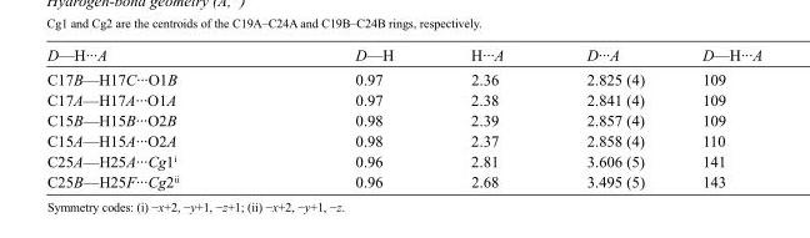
<table><tbody><tr><td>D—H···A</td><td>D—H</td><td>H···A</td><td>D···A</td><td>D—H···A</td></tr><tr><td>C17B—H17C···O1B</td><td>0.97</td><td>2.36</td><td>2.825 (4)</td><td>109</td></tr><tr><td>C17A—H17A···O1A</td><td>0.97</td><td>2.38</td><td>2.841 (4)</td><td>109</td></tr><tr><td>C15B—H15B···O2B</td><td>0.98</td><td>2.39</td><td>2.857 (4)</td><td>109</td></tr><tr><td>C15A—H15A···O2A</td><td>0.98</td><td>2.37</td><td>2.858 (4)</td><td>110</td></tr><tr><td>C25A—H25A···Cg1<sup>i</sup></td><td>0.96</td><td>2.81</td><td>3.606 (5)</td><td>141</td></tr><tr><td>C25B—H25F···Cg2<sup>ii</sup></td><td>0.96</td><td>2.68</td><td>3.495 (5)</td><td>143</td></tr></tbody></table>